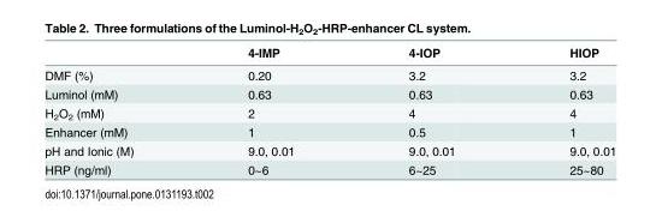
<table><thead><tr><td></td><td>4-IMP</td><td>4-IOP</td><td>HIOP</td></tr></thead><tbody><tr><td>DMF (%)</td><td>0.20</td><td>3.2</td><td>3.2</td></tr><tr><td>Luminol (mM)</td><td>0.63</td><td>0.63</td><td>0.63</td></tr><tr><td>H<sub>2</sub>O<sub>2</sub> (mM)</td><td>2</td><td>4</td><td>4</td></tr><tr><td>Enhancer (mM)</td><td>1</td><td>0.5</td><td>1</td></tr><tr><td>pH and Ionic (M)</td><td>9.0, 0.01</td><td>9.0, 0.01</td><td>9.0, 0.01</td></tr><tr><td>HRP (ng/ml)</td><td>0~6</td><td>6~25</td><td>25~80</td></tr></tbody></table>